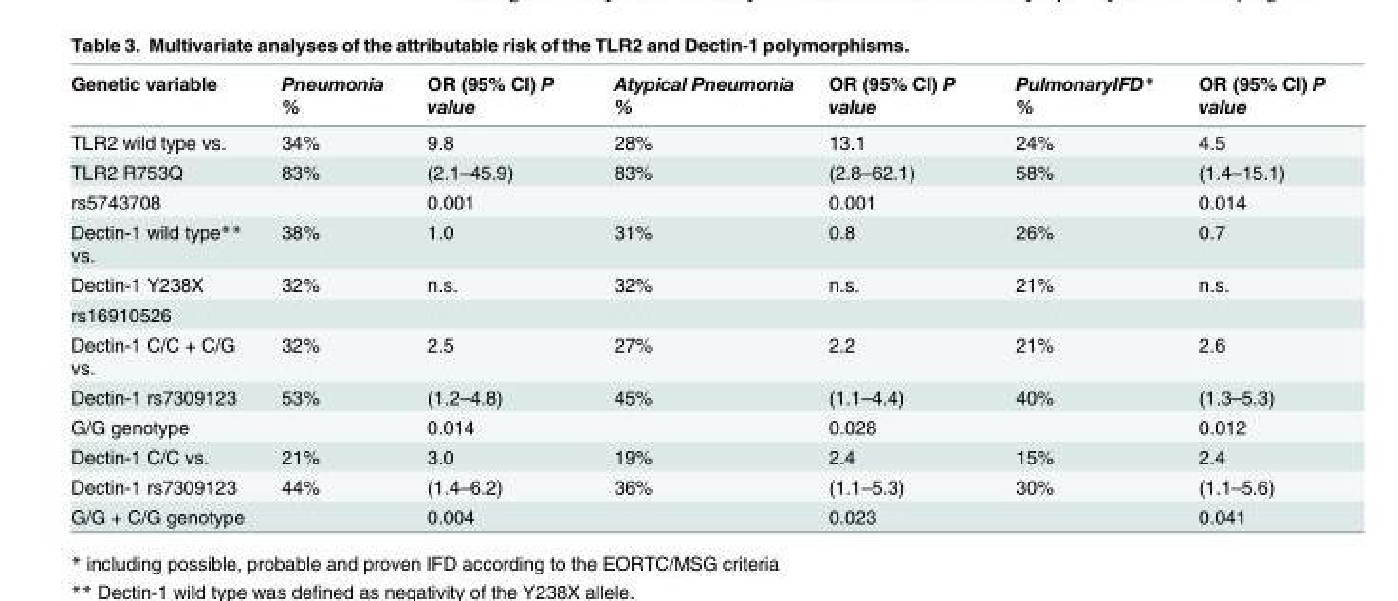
<table><thead><tr><td>Genetic variable</td><td>Pneumonia %</td><td>OR (95% CI) P value</td><td>Atypical Pneumonia %</td><td>OR (95% CI) P value</td><td>PulmonaryIFD* %</td><td>OR (95% CI) P value</td></tr></thead><tbody><tr><td>TLR2 wild type vs.</td><td>34%</td><td>9.8</td><td>28%</td><td>13.1</td><td>24%</td><td>4.5</td></tr><tr><td>TLR2 R753Q</td><td>83%</td><td>(2.1–45.9)</td><td>83%</td><td>(2.8–62.1)</td><td>58%</td><td>(1.4–15.1)</td></tr><tr><td>rs5743708</td><td></td><td>0.001</td><td></td><td>0.001</td><td></td><td>0.014</td></tr><tr><td>Dectin-1 wild type** vs.</td><td>38%</td><td>1.0</td><td>31%</td><td>0.8</td><td>26%</td><td>0.7</td></tr><tr><td>Dectin-1 Y238X</td><td>32%</td><td>n.s.</td><td>32%</td><td>n.s.</td><td>21%</td><td>n.s.</td></tr><tr><td colspan="7">rs16910526</td></tr><tr><td>Dectin-1 C/C + C/G vs.</td><td>32%</td><td>2.5</td><td>27%</td><td>2.2</td><td>21%</td><td>2.6</td></tr><tr><td>Dectin-1 rs7309123</td><td>53%</td><td>(1.2–4.8)</td><td>45%</td><td>(1.1–4.4)</td><td>40%</td><td>(1.3–5.3)</td></tr><tr><td>G/G genotype</td><td></td><td>0.014</td><td></td><td>0.028</td><td></td><td>0.012</td></tr><tr><td>Dectin-1 C/C vs.</td><td>21%</td><td>3.0</td><td>19%</td><td>2.4</td><td>15%</td><td>2.4</td></tr><tr><td>Dectin-1 rs7309123</td><td>44%</td><td>(1.4–6.2)</td><td>36%</td><td>(1.1–5.3)</td><td>30%</td><td>(1.1–5.6)</td></tr><tr><td>G/G + C/G genotype</td><td></td><td>0.004</td><td></td><td>0.023</td><td></td><td>0.041</td></tr></tbody></table>